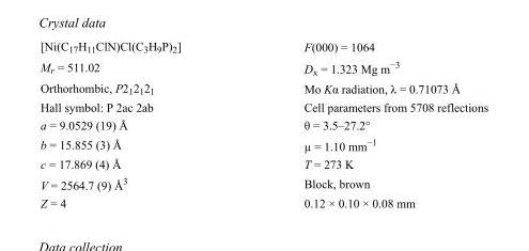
<table><tbody><tr><td>[Ni(C<sub>17</sub>H<sub>11</sub>ClN)Cl(C<sub>3</sub>H<sub>9</sub>P)<sub>2</sub>]</td><td>F(000) = 1064</td></tr><tr><td>M<sub>r</sub> = 511.02</td><td>D<sub>x</sub> = 1.323 Mg m<sup>−3</sup></td></tr><tr><td>Orthorhombic, P2<sub>1</sub>2<sub>1</sub>2<sub>1</sub></td><td>Mo Kα radiation, λ = 0.71073 Å</td></tr><tr><td>Hall symbol: P 2ac 2ab</td><td>Cell parameters from 5708 reflections</td></tr><tr><td>a = 9.0529 (19) Å</td><td>θ = 3.5–27.2°</td></tr><tr><td>b = 15.855 (3) Å</td><td>µ = 1.10 mm<sup>−1</sup></td></tr><tr><td>c = 17.869 (4) Å</td><td>T = 273 K</td></tr><tr><td>V = 2564.7 (9) Å<sup>3</sup></td><td>Block, brown</td></tr><tr><td>Z = 4</td><td>0.12 × 0.10 × 0.08 mm</td></tr></tbody></table>